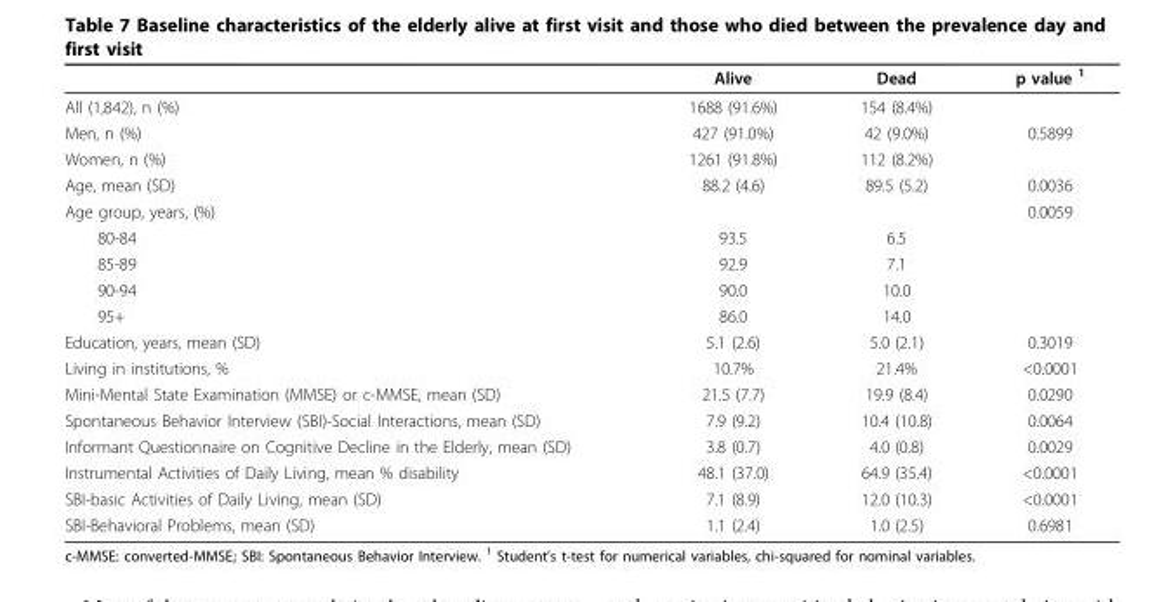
<table><thead><tr><td></td><td>Alive</td><td>Dead</td><td>p value <sup>1</sup></td></tr></thead><tbody><tr><td>All (1,842), n (%)</td><td>1688 (91.6%)</td><td>154 (8.4%)</td><td></td></tr><tr><td>Men, n (%)</td><td>427 (91.0%)</td><td>42 (9.0%)</td><td>0.5899</td></tr><tr><td>Women, n (%)</td><td>1261 (91.8%)</td><td>112 (8.2%)</td><td></td></tr><tr><td>Age, mean (SD)</td><td>88.2 (4.6)</td><td>89.5 (5.2)</td><td>0.0036</td></tr><tr><td>Age group, years, (%)</td><td></td><td></td><td>0.0059</td></tr><tr><td>80-84</td><td>93.5</td><td>6.5</td><td></td></tr><tr><td>85-89</td><td>92.9</td><td>7.1</td><td></td></tr><tr><td>90-94</td><td>90.0</td><td>10.0</td><td></td></tr><tr><td>95+</td><td>86.0</td><td>14.0</td><td></td></tr><tr><td>Education, years, mean (SD)</td><td>5.1 (2.6)</td><td>5.0 (2.1)</td><td>0.3019</td></tr><tr><td>Living in institutions, %</td><td>10.7%</td><td>21.4%</td><td>&lt;0.0001</td></tr><tr><td>Mini-Mental State Examination (MMSE) or c-MMSE, mean (SD)</td><td>21.5 (7.7)</td><td>19.9 (8.4)</td><td>0.0290</td></tr><tr><td>Spontaneous Behavior Interview (SBI)-Social Interactions, mean (SD)</td><td>7.9 (9.2)</td><td>10.4 (10.8)</td><td>0.0064</td></tr><tr><td>Informant Questionnaire on Cognitive Decline in the Elderly, mean (SD)</td><td>3.8 (0.7)</td><td>4.0 (0.8)</td><td>0.0029</td></tr><tr><td>Instrumental Activities of Daily Living, mean % disability</td><td>48.1 (37.0)</td><td>64.9 (35.4)</td><td>&lt;0.0001</td></tr><tr><td>SBI-basic Activities of Daily Living, mean (SD)</td><td>7.1 (8.9)</td><td>12.0 (10.3)</td><td>&lt;0.0001</td></tr><tr><td>SBI-Behavioral Problems, mean (SD)</td><td>1.1 (2.4)</td><td>1.0 (2.5)</td><td>0.6981</td></tr></tbody></table>